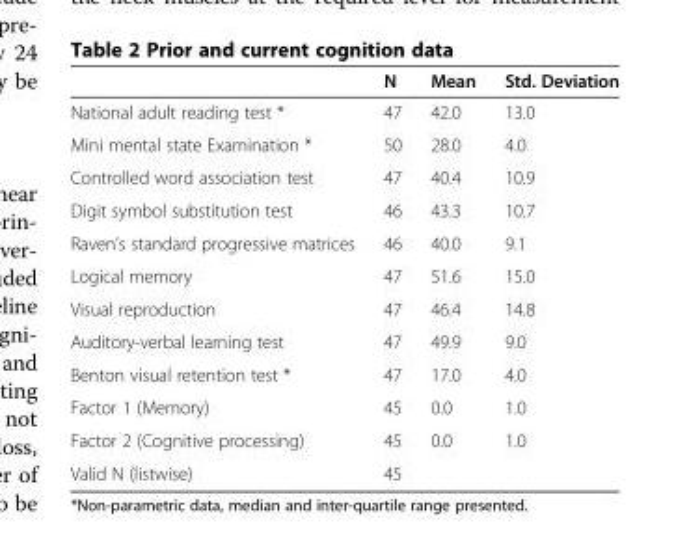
<table><thead><tr><td></td><td>N</td><td>Mean</td><td>Std. Deviation</td></tr></thead><tbody><tr><td>National adult reading test *</td><td>47</td><td>42.0</td><td>13.0</td></tr><tr><td>Mini mental state Examination *</td><td>50</td><td>28.0</td><td>4.0</td></tr><tr><td>Controlled word association test</td><td>47</td><td>40.4</td><td>10.9</td></tr><tr><td>Digit symbol substitution test</td><td>46</td><td>43.3</td><td>10.7</td></tr><tr><td>Raven’s standard progressive matrices</td><td>46</td><td>40.0</td><td>9.1</td></tr><tr><td>Logical memory</td><td>47</td><td>51.6</td><td>15.0</td></tr><tr><td>Visual reproduction</td><td>47</td><td>46.4</td><td>14.8</td></tr><tr><td>Auditory-verbal learning test</td><td>47</td><td>49.9</td><td>9.0</td></tr><tr><td>Benton visual retention test *</td><td>47</td><td>17.0</td><td>4.0</td></tr><tr><td>Factor 1 (Memory)</td><td>45</td><td>0.0</td><td>1.0</td></tr><tr><td>Factor 2 (Cognitive processing)</td><td>45</td><td>0.0</td><td>1.0</td></tr><tr><td>Valid N (listwise)</td><td>45</td><td></td><td></td></tr></tbody></table>